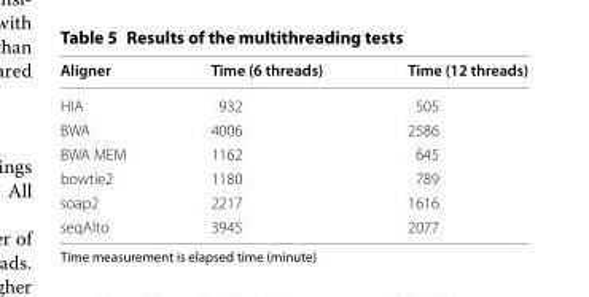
<table><thead><tr><td>Aligner</td><td>Time (6 threads)</td><td>Time (12 threads)</td></tr></thead><tbody><tr><td>HIA</td><td>932</td><td>505</td></tr><tr><td>BWA</td><td>4006</td><td>2586</td></tr><tr><td>BWA MEM</td><td>1162</td><td>645</td></tr><tr><td>bowtie2</td><td>1180</td><td>789</td></tr><tr><td>soap2</td><td>2217</td><td>1616</td></tr><tr><td>seqAlto</td><td>3945</td><td>2077</td></tr></tbody></table>